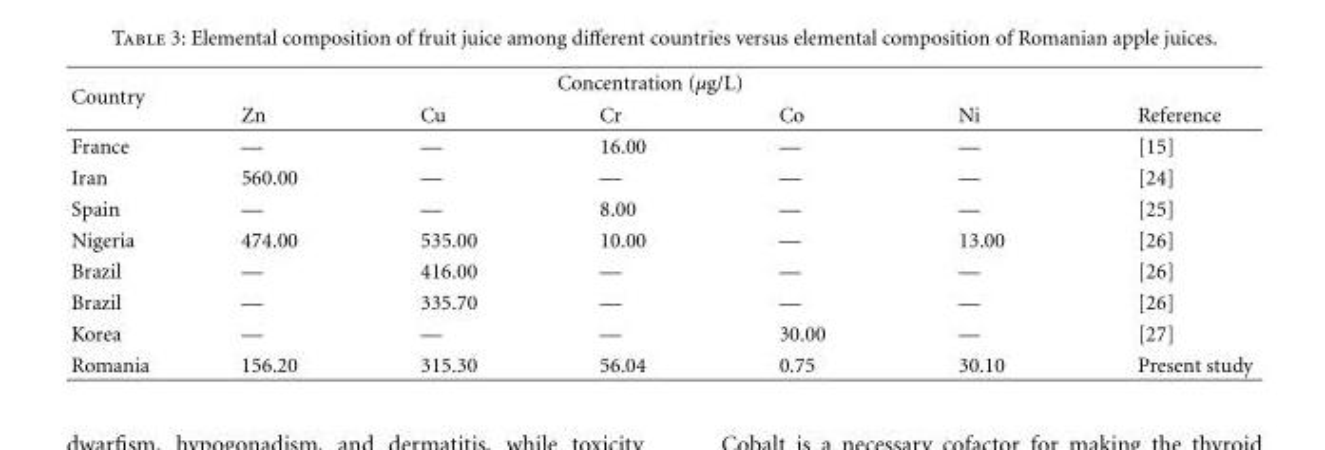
<table><thead><tr><td rowspan="2">Country</td><td colspan="6">Concentration (μg/L)</td></tr><tr><td>Zn</td><td>Cu</td><td>Cr</td><td>Co</td><td>Ni</td><td>Reference</td></tr></thead><tbody><tr><td>France</td><td>—</td><td>—</td><td>16.00</td><td>—</td><td>—</td><td>[15]</td></tr><tr><td>Iran</td><td>560.00</td><td>—</td><td>—</td><td>—</td><td>—</td><td>[24]</td></tr><tr><td>Spain</td><td>—</td><td>—</td><td>8.00</td><td>—</td><td>—</td><td>[25]</td></tr><tr><td>Nigeria</td><td>474.00</td><td>535.00</td><td>10.00</td><td>—</td><td>13.00</td><td>[26]</td></tr><tr><td>Brazil</td><td>—</td><td>416.00</td><td>—</td><td>—</td><td>—</td><td>[26]</td></tr><tr><td>Brazil</td><td>—</td><td>335.70</td><td>—</td><td>—</td><td>—</td><td>[26]</td></tr><tr><td>Korea</td><td>—</td><td>—</td><td>—</td><td>30.00</td><td>—</td><td>[27]</td></tr><tr><td>Romania</td><td>156.20</td><td>315.30</td><td>56.04</td><td>0.75</td><td>30.10</td><td>Present study</td></tr></tbody></table>